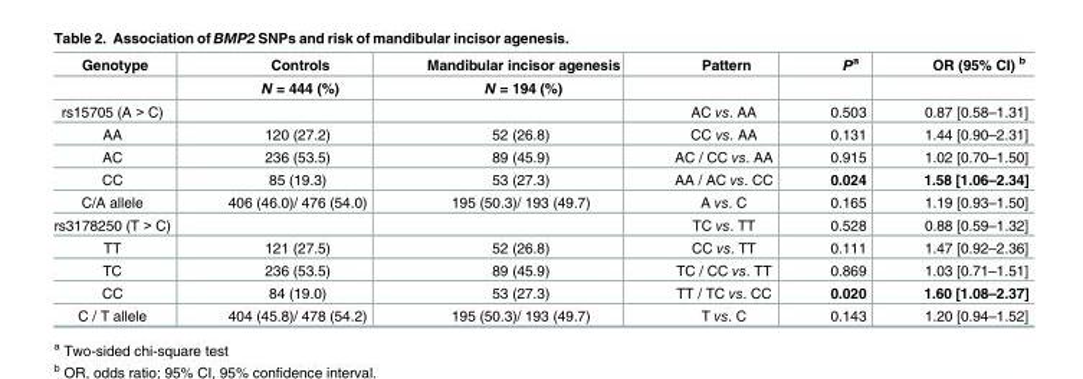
<table><thead><tr><td rowspan="2">Genotype</td><td rowspan="2">Controls N = 444 (%)</td><td rowspan="2">Mandibular incisor agenesis N = 194 (%)</td><td rowspan="2">Pattern</td><td rowspan="2">P<sup>a</sup></td><td rowspan="2">OR (95% CI) <sup>b</sup></td></tr><tr></tr></thead><tbody><tr><td>rs15705 (A &gt; C)</td><td></td><td></td><td>AC vs. AA</td><td>0.503</td><td>0.87 [0.58–1.31]</td></tr><tr><td>AA</td><td>120 (27.2)</td><td>52 (26.8)</td><td>CC vs. AA</td><td>0.131</td><td>1.44 [0.90–2.31]</td></tr><tr><td>AC</td><td>236 (53.5)</td><td>89 (45.9)</td><td>AC / CC vs. AA</td><td>0.915</td><td>1.02 [0.70–1.50]</td></tr><tr><td>CC</td><td>85 (19.3)</td><td>53 (27.3)</td><td>AA / AC vs. CC</td><td>0.024</td><td>1.58 [1.06–2.34]</td></tr><tr><td>C/A allele</td><td>406 (46.0)/ 476 (54.0)</td><td>195 (50.3)/ 193 (49.7)</td><td>A vs. C</td><td>0.165</td><td>1.19 [0.93–1.50]</td></tr><tr><td>rs3178250 (T &gt; C)</td><td></td><td></td><td>TC vs. TT</td><td>0.528</td><td>0.88 [0.59–1.32]</td></tr><tr><td>TT</td><td>121 (27.5)</td><td>52 (26.8)</td><td>CC vs. TT</td><td>0.111</td><td>1.47 [0.92–2.36]</td></tr><tr><td>TC</td><td>236 (53.5)</td><td>89 (45.9)</td><td>TC / CC vs. TT</td><td>0.869</td><td>1.03 [0.71–1.51]</td></tr><tr><td>CC</td><td>84 (19.0)</td><td>53 (27.3)</td><td>TT / TC vs. CC</td><td>0.020</td><td>1.60 [1.08–2.37]</td></tr><tr><td>C / T allele</td><td>404 (45.8)/ 478 (54.2)</td><td>195 (50.3)/ 193 (49.7)</td><td>T vs. C</td><td>0.143</td><td>1.20 [0.94–1.52]</td></tr></tbody></table>